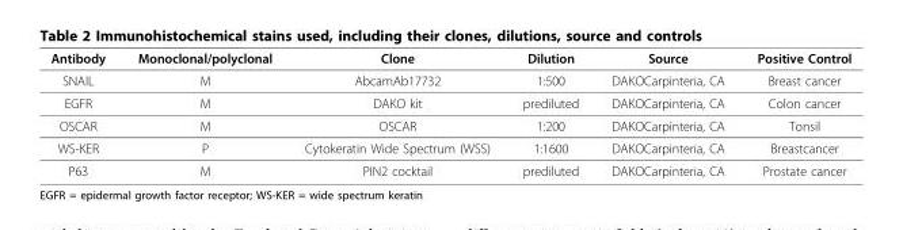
<table><thead><tr><td>Antibody</td><td>Monoclonal/polyclonal</td><td>Clone</td><td>Dilution</td><td>Source</td><td>Positive Control</td></tr></thead><tbody><tr><td>SNAIL</td><td>M</td><td>AbcamAb17732</td><td>1:500</td><td>DAKOCarpinteria, CA</td><td>Breast cancer</td></tr><tr><td>EGFR</td><td>M</td><td>DAKO kit</td><td>prediluted</td><td>DAKOCarpinteria, CA</td><td>Colon cancer</td></tr><tr><td>OSCAR</td><td>M</td><td>OSCAR</td><td>1:200</td><td>DAKOCarpinteria, CA</td><td>Tonsil</td></tr><tr><td>WS-KER</td><td>P</td><td>Cytokeratin Wide Spectrum (WSS)</td><td>1:1600</td><td>DAKOCarpinteria, CA</td><td>Breastcancer</td></tr><tr><td>P63</td><td>M</td><td>PIN2 cocktail</td><td>prediluted</td><td>DAKOCarpinteria, CA</td><td>Prostate cancer</td></tr></tbody></table>